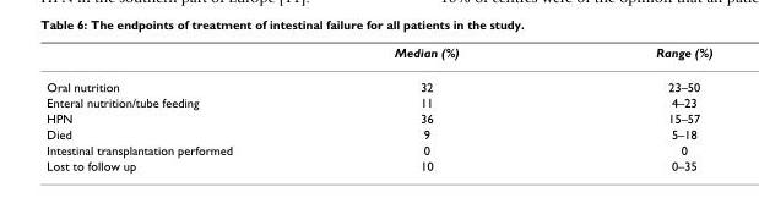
<table><thead><tr><td></td><td>Median (%)</td><td>Range (%)</td></tr></thead><tbody><tr><td>Oral nutrition</td><td>32</td><td>23–50</td></tr><tr><td>Enteral nutrition/tube feeding</td><td>11</td><td>4–23</td></tr><tr><td>HPN</td><td>36</td><td>15–57</td></tr><tr><td>Died</td><td>9</td><td>5–18</td></tr><tr><td>Intestinal transplantation performed</td><td>0</td><td>0</td></tr><tr><td>Lost to follow up</td><td>10</td><td>0–35</td></tr></tbody></table>